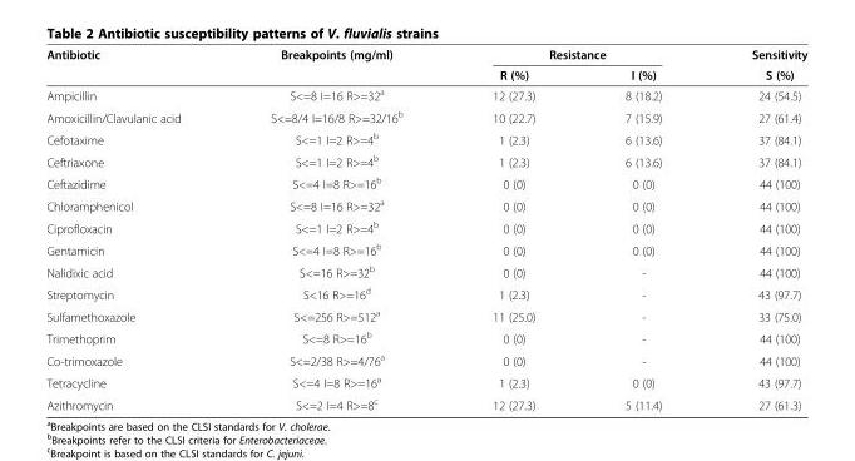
<table><thead><tr><td rowspan="2">Antibiotic</td><td rowspan="2">Breakpoints (mg/ml)</td><td colspan="2">Resistance</td><td rowspan="2">Sensitivity S (%)</td></tr><tr><td>R (%)</td><td>I (%)</td></tr></thead><tbody><tr><td>Ampicillin</td><td>S&lt;=8 I=16 R&gt;=32<sup>a</sup></td><td>12 (27.3)</td><td>8 (18.2)</td><td>24 (54.5)</td></tr><tr><td>Amoxicillin/Clavulanic acid</td><td>S&lt;=8/4 I=16/8 R&gt;=32/16<sup>b</sup></td><td>10 (22.7)</td><td>7 (15.9)</td><td>27 (61.4)</td></tr><tr><td>Cefotaxime</td><td>S&lt;=1 I=2 R&gt;=4<sup>b</sup></td><td>1 (2.3)</td><td>6 (13.6)</td><td>37 (84.1)</td></tr><tr><td>Ceftriaxone</td><td>S&lt;=1 I=2 R&gt;=4<sup>b</sup></td><td>1 (2.3)</td><td>6 (13.6)</td><td>37 (84.1)</td></tr><tr><td>Ceftazidime</td><td>S&lt;=4 I=8 R&gt;=16<sup>b</sup></td><td>0 (0)</td><td>0 (0)</td><td>44 (100)</td></tr><tr><td>Chloramphenicol</td><td>S&lt;=8 I=16 R&gt;=32<sup>a</sup></td><td>0 (0)</td><td>0 (0)</td><td>44 (100)</td></tr><tr><td>Ciprofloxacin</td><td>S&lt;=1 I=2 R&gt;=4<sup>b</sup></td><td>0 (0)</td><td>0 (0)</td><td>44 (100)</td></tr><tr><td>Gentamicin</td><td>S&lt;=4 I=8 R&gt;=16<sup>b</sup></td><td>0 (0)</td><td>0 (0)</td><td>44 (100)</td></tr><tr><td>Nalidixic acid</td><td>S&lt;=16 R&gt;=32<sup>b</sup></td><td>0 (0)</td><td>-</td><td>44 (100)</td></tr><tr><td>Streptomycin</td><td>S&lt;16 R&gt;=16<sup>d</sup></td><td>1 (2.3)</td><td>-</td><td>43 (97.7)</td></tr><tr><td>Sulfamethoxazole</td><td>S&lt;=256 R&gt;=512<sup>a</sup></td><td>11 (25.0)</td><td>-</td><td>33 (75.0)</td></tr><tr><td>Trimethoprim</td><td>S&lt;=8 R&gt;=16<sup>b</sup></td><td>0 (0)</td><td>-</td><td>44 (100)</td></tr><tr><td>Co-trimoxazole</td><td>S&lt;=2/38 R&gt;=4/76<sup>a</sup></td><td>0 (0)</td><td>-</td><td>44 (100)</td></tr><tr><td>Tetracycline</td><td>S&lt;=4 I=8 R&gt;=16<sup>a</sup></td><td>1 (2.3)</td><td>0 (0)</td><td>43 (97.7)</td></tr><tr><td>Azithromycin</td><td>S&lt;=2 I=4 R&gt;=8<sup>c</sup></td><td>12 (27.3)</td><td>5 (11.4)</td><td>27 (61.3)</td></tr></tbody></table>